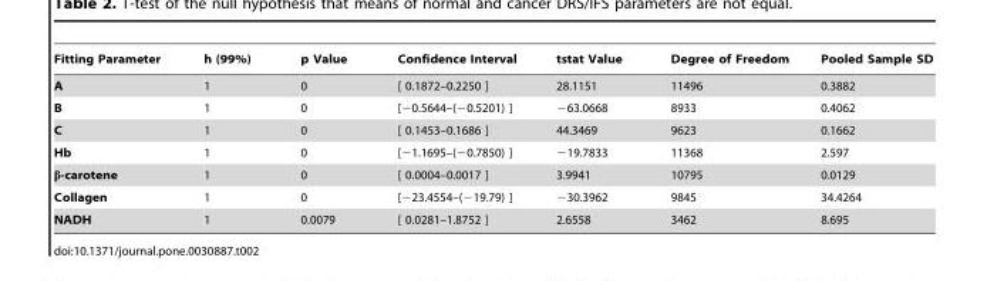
<table><thead><tr><td>Fitting Parameter</td><td>h (99%)</td><td>p Value</td><td>Confidence Interval</td><td>tstat Value</td><td>Degree of Freedom</td><td>Pooled Sample SD</td></tr></thead><tbody><tr><td>A</td><td>1</td><td>0</td><td>[ 0.1872–0.2250 ]</td><td>28.1151</td><td>11496</td><td>0.3882</td></tr><tr><td>B</td><td>1</td><td>0</td><td>[−0.5644–(−0.5201) ]</td><td>−63.0668</td><td>8933</td><td>0.4062</td></tr><tr><td>C</td><td>1</td><td>0</td><td>[ 0.1453–0.1686 ]</td><td>44.3469</td><td>9623</td><td>0.1662</td></tr><tr><td>Hb</td><td>1</td><td>0</td><td>[−1.1695–(−0.7850) ]</td><td>−19.7833</td><td>11368</td><td>2.597</td></tr><tr><td>β-carotene</td><td>1</td><td>0</td><td>[ 0.0004–0.0017 ]</td><td>3.9941</td><td>10795</td><td>0.0129</td></tr><tr><td>Collagen</td><td>1</td><td>0</td><td>[−23.4554–(−19.79) ]</td><td>−30.3962</td><td>9845</td><td>34.4264</td></tr><tr><td>NADH</td><td>1</td><td>0.0079</td><td>[ 0.0281–1.8752 ]</td><td>2.6558</td><td>3462</td><td>8.695</td></tr></tbody></table>